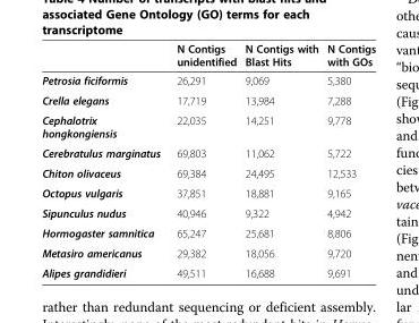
<table><thead><tr><td></td><td>N Contigs unidentified</td><td>N Contigs with Blast Hits</td><td>N Contigs with GOs</td></tr></thead><tbody><tr><td>Petrosia ficiformis</td><td>26,291</td><td>9,069</td><td>5,380</td></tr><tr><td>Crella elegans</td><td>17,719</td><td>13,984</td><td>7,288</td></tr><tr><td>Cephalotrix hongkongiensis</td><td>22,035</td><td>14,251</td><td>9,778</td></tr><tr><td>Cerebratulus marginatus</td><td>69,803</td><td>11,062</td><td>5,722</td></tr><tr><td>Chiton olivaceus</td><td>69,384</td><td>24,495</td><td>12,533</td></tr><tr><td>Octopus vulgaris</td><td>37,851</td><td>18,881</td><td>9,165</td></tr><tr><td>Sipunculus nudus</td><td>40,946</td><td>9,322</td><td>4,942</td></tr><tr><td>Hormogaster samnitica</td><td>65,247</td><td>25,681</td><td>8,806</td></tr><tr><td>Metasiro americanus</td><td>29,382</td><td>18,056</td><td>9,720</td></tr><tr><td>Alipes grandidieri</td><td>49,511</td><td>16,688</td><td>9,691</td></tr></tbody></table>